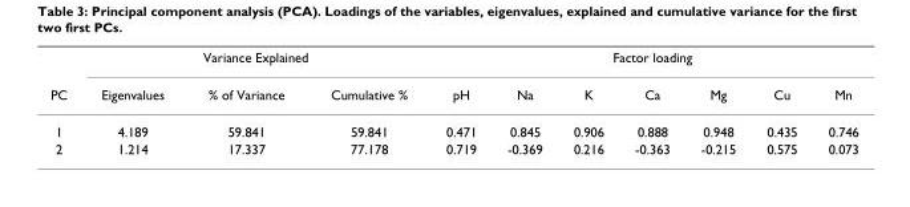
<table><thead><tr><td rowspan="2">PC</td><td colspan="3">Variance Explained</td><td colspan="7">Factor loading</td></tr><tr><td>Eigenvalues</td><td>% of Variance</td><td>Cumulative %</td><td>pH</td><td>Na</td><td>K</td><td>Ca</td><td>Mg</td><td>Cu</td><td>Mn</td></tr></thead><tbody><tr><td>1</td><td>4.189</td><td>59.841</td><td>59.841</td><td>0.471</td><td>0.845</td><td>0.906</td><td>0.888</td><td>0.948</td><td>0.435</td><td>0.746</td></tr><tr><td>2</td><td>1.214</td><td>17.337</td><td>77.178</td><td>0.719</td><td>-0.369</td><td>0.216</td><td>-0.363</td><td>-0.215</td><td>0.575</td><td>0.073</td></tr></tbody></table>